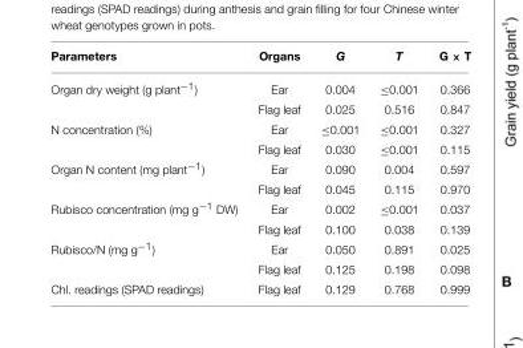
<table><thead><tr><td>Parameters</td><td>Organs</td><td>G</td><td>T</td><td>G × T</td></tr></thead><tbody><tr><td rowspan="2">Organ dry weight (g plant<sup>−1</sup>)</td><td>Ear</td><td>0.004</td><td>≤0.001</td><td>0.366</td></tr><tr><td>Flag leaf</td><td>0.025</td><td>0.516</td><td>0.847</td></tr><tr><td rowspan="2">N concentration (%)</td><td>Ear</td><td>≤0.001</td><td>≤0.001</td><td>0.327</td></tr><tr><td>Flag leaf</td><td>0.030</td><td>≤0.001</td><td>0.115</td></tr><tr><td rowspan="2">Organ N content (mg plant<sup>−1</sup>)</td><td>Ear</td><td>0.090</td><td>0.004</td><td>0.597</td></tr><tr><td>Flag leaf</td><td>0.045</td><td>0.115</td><td>0.970</td></tr><tr><td rowspan="2">Rubisco concentration (mg g<sup>−1</sup> DW)</td><td>Ear</td><td>0.002</td><td>≤0.001</td><td>0.037</td></tr><tr><td>Flag leaf</td><td>0.100</td><td>0.038</td><td>0.139</td></tr><tr><td rowspan="2">Rubisco/N (mg g<sup>−1</sup>)</td><td>Ear</td><td>0.050</td><td>0.891</td><td>0.025</td></tr><tr><td>Flag leaf</td><td>0.125</td><td>0.198</td><td>0.098</td></tr><tr><td>Chl. readings (SPAD readings)</td><td>Flag leaf</td><td>0.129</td><td>0.768</td><td>0.999</td></tr></tbody></table>